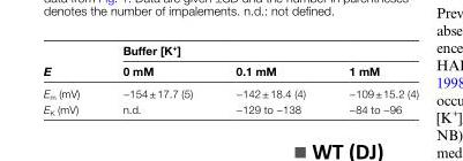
<table><thead><tr><td rowspan="2">E</td><td colspan="3">Buffer [K<sup>+</sup>]</td></tr><tr><td>0 mM</td><td>0.1 mM</td><td>1 mM</td></tr></thead><tbody><tr><td>E<sub>m</sub> (mV)</td><td>−154 ± 17.7 (5)</td><td>−142 ± 18.4 (4)</td><td>−109 ± 15.2 (4)</td></tr><tr><td>E<sub>K</sub> (mV)</td><td>n.d.</td><td>−129 to −138</td><td>−84 to −96</td></tr></tbody></table>